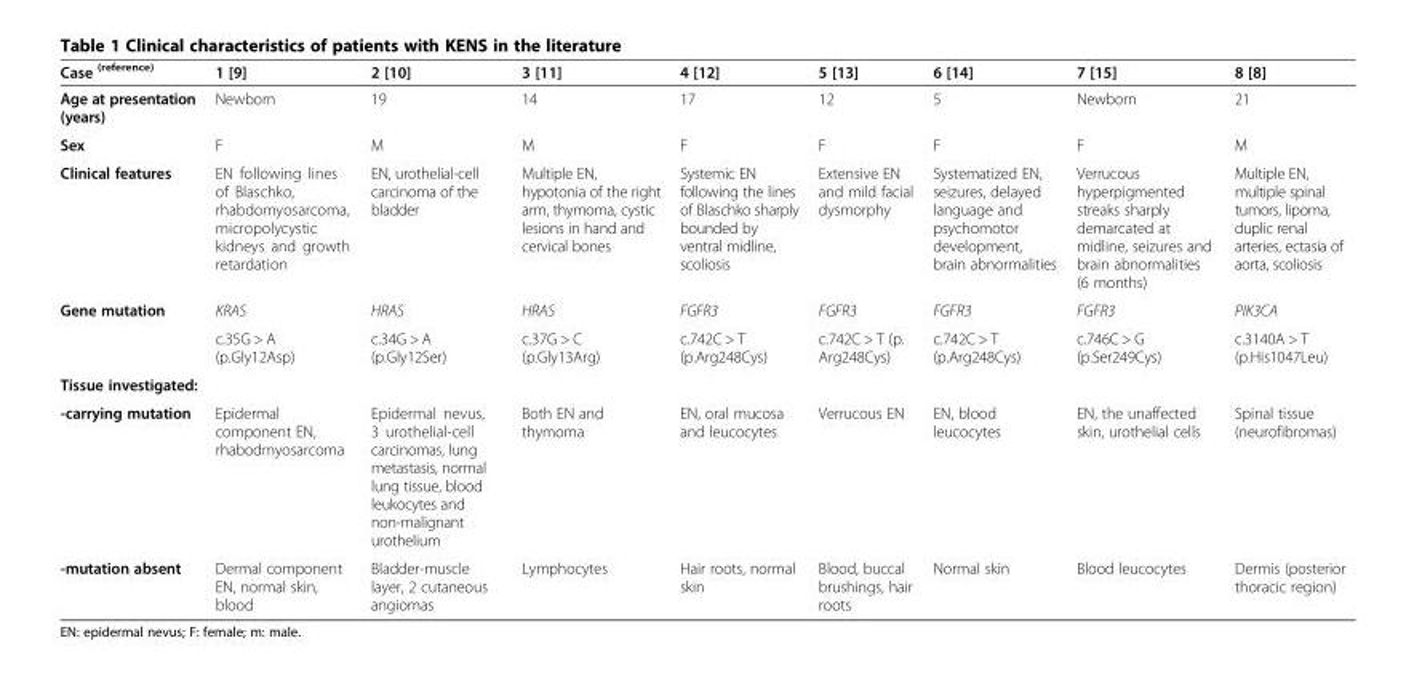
<table><thead><tr><td>Case <sup>(reference)</sup></td><td>1 [9]</td><td>2 [10]</td><td>3 [11]</td><td>4 [12]</td><td>5 [13]</td><td>6 [14]</td><td>7 [15]</td><td>8 [8]</td></tr></thead><tbody><tr><td>Age at presentation (years)</td><td>Newborn</td><td>19</td><td>14</td><td>17</td><td>12</td><td>5</td><td>Newborn</td><td>21</td></tr><tr><td>Sex</td><td>F</td><td>M</td><td>M</td><td>F</td><td>F</td><td>F</td><td>F</td><td>M</td></tr><tr><td>Clinical features</td><td>EN following lines of Blaschko, rhabdomyosarcoma, micropolycystic kidneys and growth retardation</td><td>EN, urothelial-cell carcinoma of the bladder</td><td>Multiple EN, hypotonia of the right arm, thymoma, cystic lesions in hand and cervical bones</td><td>Systemic EN following the lines of Blaschko sharply bounded by ventral midline, scoliosis</td><td>Extensive EN and mild facial dysmorphy</td><td>Systematized EN, seizures, delayed language and psychomotor development, brain abnormalities</td><td>Verrucous hyperpigmented streaks sharply demarcated at midline, seizures and brain abnormalities (6 months)</td><td>Multiple EN, multiple spinal tumors, lipoma, duplic renal arteries, ectasia of aorta, scoliosis</td></tr><tr><td rowspan="2">Gene mutation</td><td>KRAS</td><td>HRAS</td><td>HRAS</td><td>FGFR3</td><td>FGFR3</td><td>FGFR3</td><td>FGFR3</td><td>PIK3CA</td></tr><tr><td>c.35G &gt; A (p.Gly12Asp)</td><td>c.34G &gt; A (p.Gly12Ser)</td><td>c.37G &gt; C (p.Gly13Arg)</td><td>c.742C &gt; T (p.Arg248Cys)</td><td>c.742C &gt; T (p. Arg248Cys)</td><td>c.742C &gt; T (p.Arg248Cys)</td><td>c.746C &gt; G (p.Ser249Cys)</td><td>c.3140A &gt; T (p.His1047Leu)</td></tr><tr><td colspan="9">Tissue investigated:</td></tr><tr><td>-carrying mutation</td><td>Epidermal component EN, rhabodmyosarcoma</td><td>Epidermal nevus, 3 urothelial-cell carcinomas, lung metastasis, normal lung tissue, blood leukocytes and non-malignant urothelium</td><td>Both EN and thymoma</td><td>EN, oral mucosa and leucocytes</td><td>Verrucous EN</td><td>EN, blood leucocytes</td><td>EN, the unaffected skin, urothelial cells</td><td>Spinal tissue (neurofibromas)</td></tr><tr><td>-mutation absent</td><td>Dermal component EN, normal skin, blood</td><td>Bladder-muscle layer, 2 cutaneous angiomas</td><td>Lymphocytes</td><td>Hair roots, normal skin</td><td>Blood, buccal brushings, hair roots</td><td>Normal skin</td><td>Blood leucocytes</td><td>Dermis (posterior thoracic region)</td></tr></tbody></table>